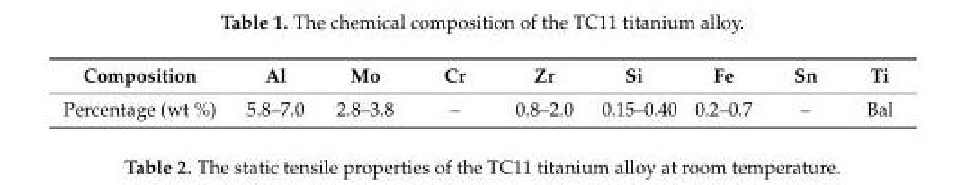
<table><thead><tr><td>Composition</td><td>Al</td><td>Mo</td><td>Cr</td><td>Zr</td><td>Si</td><td>Fe</td><td>Sn</td><td>Ti</td></tr></thead><tbody><tr><td>Percentage (wt %)</td><td>5.8–7.0</td><td>2.8–3.8</td><td>–</td><td>0.8–2.0</td><td>0.15–0.40</td><td>0.2–0.7</td><td>–</td><td>Bal</td></tr></tbody></table>